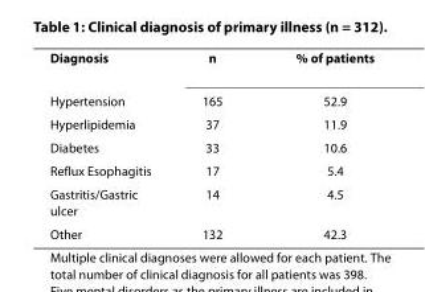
<table><tbody><tr><td>Diagnosis</td><td>n</td><td>% of patients</td></tr><tr><td>Hypertension</td><td>165</td><td>52.9</td></tr><tr><td>Hyperlipidemia</td><td>37</td><td>11.9</td></tr><tr><td>Diabetes</td><td>33</td><td>10.6</td></tr><tr><td>Reflux Esophagitis</td><td>17</td><td>5.4</td></tr><tr><td>Gastritis/Gastric ulcer</td><td>14</td><td>4.5</td></tr><tr><td>Other</td><td>132</td><td>42.3</td></tr></tbody></table>